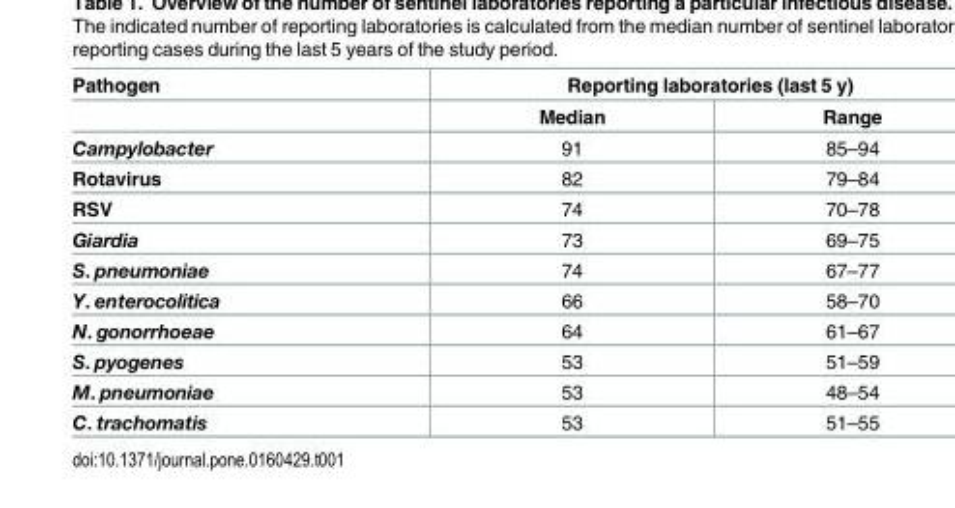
<table><thead><tr><td rowspan="2">Pathogen</td><td colspan="2">Reporting laboratories (last 5 y)</td></tr><tr><td>Median</td><td>Range</td></tr></thead><tbody><tr><td>Campylobacter</td><td>91</td><td>85–94</td></tr><tr><td>Rotavirus</td><td>82</td><td>79–84</td></tr><tr><td>RSV</td><td>74</td><td>70–78</td></tr><tr><td>Giardia</td><td>73</td><td>69–75</td></tr><tr><td>S. pneumoniae</td><td>74</td><td>67–77</td></tr><tr><td>Y. enterocolitica</td><td>66</td><td>58–70</td></tr><tr><td>N. gonorrhoeae</td><td>64</td><td>61–67</td></tr><tr><td>S. pyogenes</td><td>53</td><td>51–59</td></tr><tr><td>M. pneumoniae</td><td>53</td><td>48–54</td></tr><tr><td>C. trachomatis</td><td>53</td><td>51–55</td></tr></tbody></table>